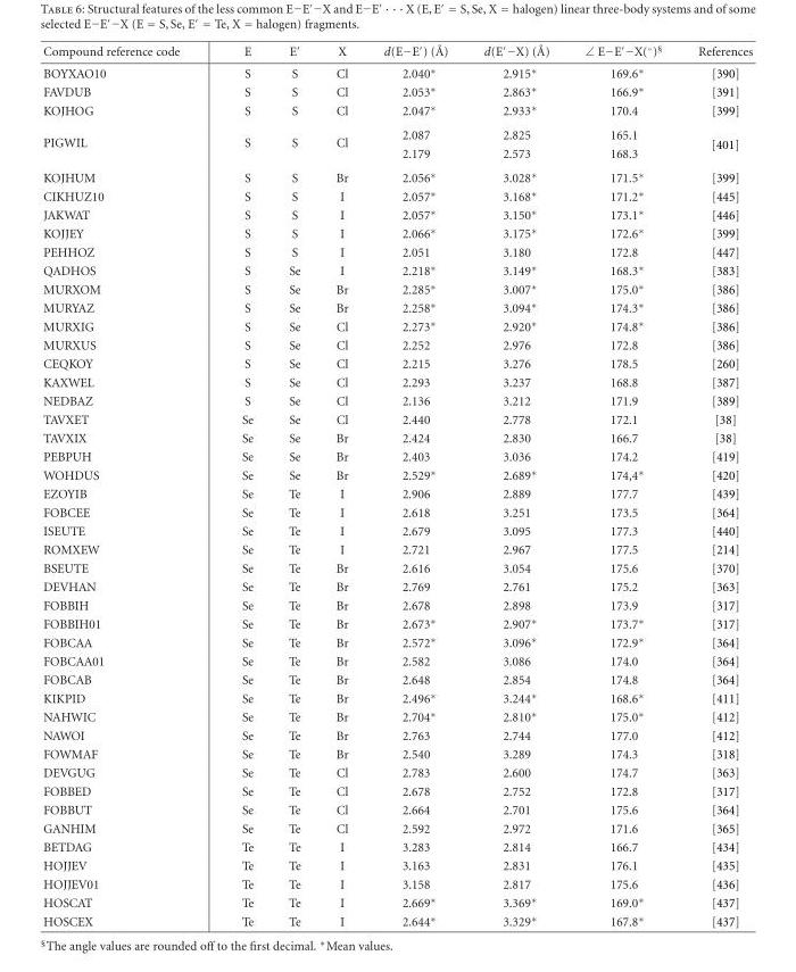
<table><thead><tr><td>Compound reference code</td><td>E</td><td>E′</td><td>X</td><td>d(E−E′) ( ˚A)</td><td>d(E′−X) ( ˚A)</td><td>∠ E−E′−X(◦)§</td><td>References</td></tr></thead><tbody><tr><td>BOYXAO10</td><td>S</td><td>S</td><td>Cl</td><td>2.040∗</td><td>2.915∗</td><td>169.6∗</td><td>[390]</td></tr><tr><td>FAVDUB</td><td>S</td><td>S</td><td>Cl</td><td>2.053∗</td><td>2.863∗</td><td>166.9∗</td><td>[391]</td></tr><tr><td>KOJHOG</td><td>S</td><td>S</td><td>Cl</td><td>2.047∗</td><td>2.933∗</td><td>170.4</td><td>[399]</td></tr><tr><td rowspan="2">PIGWIL</td><td rowspan="2">S</td><td rowspan="2">S</td><td rowspan="2">Cl</td><td>2.087</td><td>2.825</td><td>165.1</td><td rowspan="2">[401]</td></tr><tr><td>2.179</td><td>2.573</td><td>168.3</td></tr><tr><td>KOJHUM</td><td>S</td><td>S</td><td>Br</td><td>2.056∗</td><td>3.028∗</td><td>171.5∗</td><td>[399]</td></tr><tr><td>CIKHUZ10</td><td>S</td><td>S</td><td>I</td><td>2.057∗</td><td>3.168∗</td><td>171.2∗</td><td>[445]</td></tr><tr><td>JAKWAT</td><td>S</td><td>S</td><td>I</td><td>2.057∗</td><td>3.150∗</td><td>173.1∗</td><td>[446]</td></tr><tr><td>KOJJEY</td><td>S</td><td>S</td><td>I</td><td>2.066∗</td><td>3.175∗</td><td>172.6∗</td><td>[399]</td></tr><tr><td>PEHHOZ</td><td>S</td><td>S</td><td>I</td><td>2.051</td><td>3.180</td><td>172.8</td><td>[447]</td></tr><tr><td>QADHOS</td><td>S</td><td>Se</td><td>I</td><td>2.218∗</td><td>3.149∗</td><td>168.3∗</td><td>[383]</td></tr><tr><td>MURXOM</td><td>S</td><td>Se</td><td>Br</td><td>2.285∗</td><td>3.007∗</td><td>175.0∗</td><td>[386]</td></tr><tr><td>MURYAZ</td><td>S</td><td>Se</td><td>Br</td><td>2.258∗</td><td>3.094∗</td><td>174.3∗</td><td>[386]</td></tr><tr><td>MURXIG</td><td>S</td><td>Se</td><td>Cl</td><td>2.273∗</td><td>2.920∗</td><td>174.8∗</td><td>[386]</td></tr><tr><td>MURXUS</td><td>S</td><td>Se</td><td>Cl</td><td>2.252</td><td>2.976</td><td>172.8</td><td>[386]</td></tr><tr><td>CEQKOY</td><td>S</td><td>Se</td><td>Cl</td><td>2.215</td><td>3.276</td><td>178.5</td><td>[260]</td></tr><tr><td>KAXWEL</td><td>S</td><td>Se</td><td>Cl</td><td>2.293</td><td>3.237</td><td>168.8</td><td>[387]</td></tr><tr><td>NEDBAZ</td><td>S</td><td>Se</td><td>Cl</td><td>2.136</td><td>3.212</td><td>171.9</td><td>[389]</td></tr><tr><td>TAVXET</td><td>Se</td><td>Se</td><td>Cl</td><td>2.440</td><td>2.778</td><td>172.1</td><td>[38]</td></tr><tr><td>TAVXIX</td><td>Se</td><td>Se</td><td>Br</td><td>2.424</td><td>2.830</td><td>166.7</td><td>[38]</td></tr><tr><td>PEBPUH</td><td>Se</td><td>Se</td><td>Br</td><td>2.403</td><td>3.036</td><td>174.2</td><td>[419]</td></tr><tr><td>WOHDUS</td><td>Se</td><td>Se</td><td>Br</td><td>2.529∗</td><td>2.689∗</td><td>174,4∗</td><td>[420]</td></tr><tr><td>EZOYIB</td><td>Se</td><td>Te</td><td>I</td><td>2.906</td><td>2.889</td><td>177.7</td><td>[439]</td></tr><tr><td>FOBCEE</td><td>Se</td><td>Te</td><td>I</td><td>2.618</td><td>3.251</td><td>173.5</td><td>[364]</td></tr><tr><td>ISEUTE</td><td>Se</td><td>Te</td><td>I</td><td>2.679</td><td>3.095</td><td>177.3</td><td>[440]</td></tr><tr><td>ROMXEW</td><td>Se</td><td>Te</td><td>I</td><td>2.721</td><td>2.967</td><td>177.5</td><td>[214]</td></tr><tr><td>BSEUTE</td><td>Se</td><td>Te</td><td>Br</td><td>2.616</td><td>3.054</td><td>175.6</td><td>[370]</td></tr><tr><td>DEVHAN</td><td>Se</td><td>Te</td><td>Br</td><td>2.769</td><td>2.761</td><td>175.2</td><td>[363]</td></tr><tr><td>FOBBIH</td><td>Se</td><td>Te</td><td>Br</td><td>2.678</td><td>2.898</td><td>173.9</td><td>[317]</td></tr><tr><td>FOBBIH01</td><td>Se</td><td>Te</td><td>Br</td><td>2.673∗</td><td>2.907∗</td><td>173.7∗</td><td>[317]</td></tr><tr><td>FOBCAA</td><td>Se</td><td>Te</td><td>Br</td><td>2.572∗</td><td>3.096∗</td><td>172.9∗</td><td>[364]</td></tr><tr><td>FOBCAA01</td><td>Se</td><td>Te</td><td>Br</td><td>2.582</td><td>3.086</td><td>174.0</td><td>[364]</td></tr><tr><td>FOBCAB</td><td>Se</td><td>Te</td><td>Br</td><td>2.648</td><td>2.854</td><td>174.8</td><td>[364]</td></tr><tr><td>KIKPID</td><td>Se</td><td>Te</td><td>Br</td><td>2.496∗</td><td>3.244∗</td><td>168.6∗</td><td>[411]</td></tr><tr><td>NAHWIC</td><td>Se</td><td>Te</td><td>Br</td><td>2.704∗</td><td>2.810∗</td><td>175.0∗</td><td>[412]</td></tr><tr><td>NAWOI</td><td>Se</td><td>Te</td><td>Br</td><td>2.763</td><td>2.744</td><td>177.0</td><td>[412]</td></tr><tr><td>FOWMAF</td><td>Se</td><td>Te</td><td>Br</td><td>2.540</td><td>3.289</td><td>174.3</td><td>[318]</td></tr><tr><td>DEVGUG</td><td>Se</td><td>Te</td><td>Cl</td><td>2.783</td><td>2.600</td><td>174.7</td><td>[363]</td></tr><tr><td>FOBBED</td><td>Se</td><td>Te</td><td>Cl</td><td>2.678</td><td>2.752</td><td>172.8</td><td>[317]</td></tr><tr><td>FOBBUT</td><td>Se</td><td>Te</td><td>Cl</td><td>2.664</td><td>2.701</td><td>175.6</td><td>[364]</td></tr><tr><td>GANHIM</td><td>Se</td><td>Te</td><td>Cl</td><td>2.592</td><td>2.972</td><td>171.6</td><td>[365]</td></tr><tr><td>BETDAG</td><td>Te</td><td>Te</td><td>I</td><td>3.283</td><td>2.814</td><td>166.7</td><td>[434]</td></tr><tr><td>HOJJEV</td><td>Te</td><td>Te</td><td>I</td><td>3.163</td><td>2.831</td><td>176.1</td><td>[435]</td></tr><tr><td>HOJJEV01</td><td>Te</td><td>Te</td><td>I</td><td>3.158</td><td>2.817</td><td>175.6</td><td>[436]</td></tr><tr><td>HOSCAT</td><td>Te</td><td>Te</td><td>I</td><td>2.669∗</td><td>3.369∗</td><td>169.0∗</td><td>[437]</td></tr><tr><td>HOSCEX</td><td>Te</td><td>Te</td><td>I</td><td>2.644∗</td><td>3.329∗</td><td>167.8∗</td><td>[437]</td></tr></tbody></table>